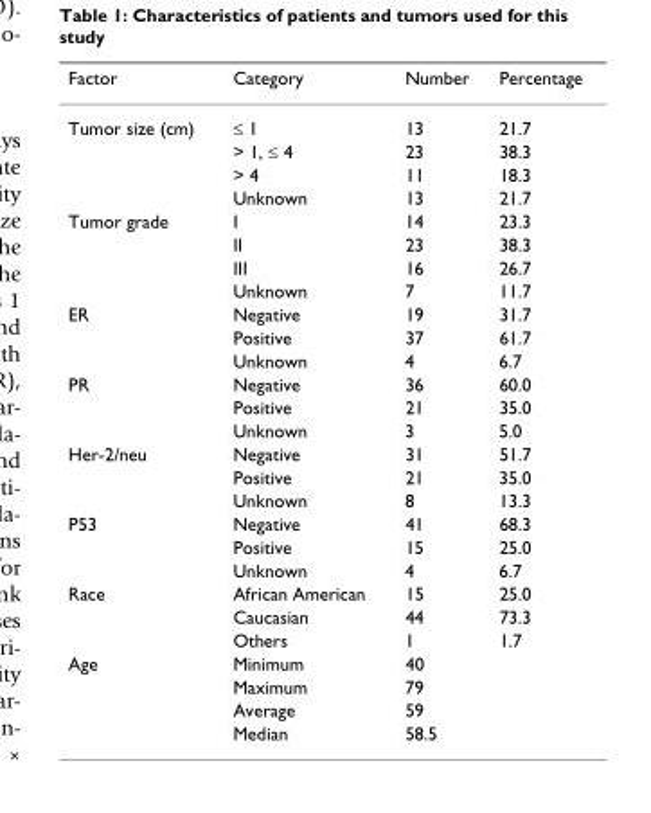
<table><thead><tr><td>Factor</td><td>Category</td><td>Number</td><td>Percentage</td></tr></thead><tbody><tr><td rowspan="4">Tumor size (cm)</td><td>≤ 1</td><td>13</td><td>21.7</td></tr><tr><td>&gt; 1, ≤ 4</td><td>23</td><td>38.3</td></tr><tr><td>&gt; 4</td><td>11</td><td>18.3</td></tr><tr><td>Unknown</td><td>13</td><td>21.7</td></tr><tr><td rowspan="4">Tumor grade</td><td>I</td><td>14</td><td>23.3</td></tr><tr><td>II</td><td>23</td><td>38.3</td></tr><tr><td>III</td><td>16</td><td>26.7</td></tr><tr><td>Unknown</td><td>7</td><td>11.7</td></tr><tr><td rowspan="3">ER</td><td>Negative</td><td>19</td><td>31.7</td></tr><tr><td>Positive</td><td>37</td><td>61.7</td></tr><tr><td>Unknown</td><td>4</td><td>6.7</td></tr><tr><td rowspan="3">PR</td><td>Negative</td><td>36</td><td>60.0</td></tr><tr><td>Positive</td><td>21</td><td>35.0</td></tr><tr><td>Unknown</td><td>3</td><td>5.0</td></tr><tr><td rowspan="3">Her-2/neu</td><td>Negative</td><td>31</td><td>51.7</td></tr><tr><td>Positive</td><td>21</td><td>35.0</td></tr><tr><td>Unknown</td><td>8</td><td>13.3</td></tr><tr><td rowspan="3">P53</td><td>Negative</td><td>41</td><td>68.3</td></tr><tr><td>Positive</td><td>15</td><td>25.0</td></tr><tr><td>Unknown</td><td>4</td><td>6.7</td></tr><tr><td rowspan="3">Race</td><td>African American</td><td>15</td><td>25.0</td></tr><tr><td>Caucasian</td><td>44</td><td>73.3</td></tr><tr><td>Others</td><td>1</td><td>1.7</td></tr><tr><td rowspan="4">Age</td><td>Minimum</td><td>40</td><td></td></tr><tr><td>Maximum</td><td>79</td><td></td></tr><tr><td>Average</td><td>59</td><td></td></tr><tr><td>Median</td><td>58.5</td><td></td></tr></tbody></table>